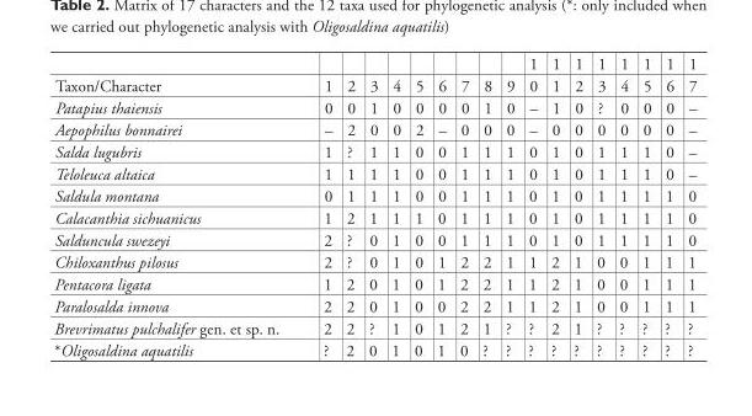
<table><thead><tr><td></td><td></td><td></td><td></td><td></td><td></td><td></td><td></td><td></td><td></td><td>1</td><td>1</td><td>1</td><td>1</td><td>1</td><td>1</td><td>1</td><td>1</td></tr></thead><tbody><tr><td>Taxon/Character</td><td>1</td><td>2</td><td>3</td><td>4</td><td>5</td><td>6</td><td>7</td><td>8</td><td>9</td><td>0</td><td>1</td><td>2</td><td>3</td><td>4</td><td>5</td><td>6</td><td>7</td></tr><tr><td>Patapius thaiensis</td><td>0</td><td>0</td><td>1</td><td>0</td><td>0</td><td>0</td><td>0</td><td>1</td><td>0</td><td>–</td><td>1</td><td>0</td><td>?</td><td>0</td><td>0</td><td>0</td><td>–</td></tr><tr><td>Aepophilus bonnairei</td><td>–</td><td>2</td><td>0</td><td>0</td><td>2</td><td>–</td><td>0</td><td>0</td><td>0</td><td>–</td><td>0</td><td>0</td><td>0</td><td>0</td><td>0</td><td>0</td><td>–</td></tr><tr><td>Salda lugubris</td><td>1</td><td>?</td><td>1</td><td>1</td><td>0</td><td>0</td><td>1</td><td>1</td><td>1</td><td>0</td><td>1</td><td>0</td><td>1</td><td>1</td><td>1</td><td>0</td><td>–</td></tr><tr><td>Teloleuca altaica</td><td>1</td><td>1</td><td>1</td><td>1</td><td>0</td><td>0</td><td>1</td><td>1</td><td>1</td><td>0</td><td>1</td><td>0</td><td>1</td><td>1</td><td>1</td><td>0</td><td>–</td></tr><tr><td>Saldula montana</td><td>0</td><td>1</td><td>1</td><td>1</td><td>0</td><td>0</td><td>1</td><td>1</td><td>1</td><td>0</td><td>1</td><td>0</td><td>1</td><td>1</td><td>1</td><td>1</td><td>0</td></tr><tr><td>Calacanthia sichuanicus</td><td>1</td><td>2</td><td>1</td><td>1</td><td>1</td><td>0</td><td>1</td><td>1</td><td>1</td><td>0</td><td>1</td><td>0</td><td>1</td><td>1</td><td>1</td><td>1</td><td>0</td></tr><tr><td>Salduncula swezeyi</td><td>2</td><td>?</td><td>0</td><td>1</td><td>0</td><td>0</td><td>1</td><td>1</td><td>1</td><td>0</td><td>1</td><td>0</td><td>1</td><td>1</td><td>1</td><td>1</td><td>0</td></tr><tr><td>Chiloxanthus pilosus</td><td>2</td><td>?</td><td>0</td><td>1</td><td>0</td><td>1</td><td>2</td><td>2</td><td>1</td><td>1</td><td>2</td><td>1</td><td>0</td><td>0</td><td>1</td><td>1</td><td>1</td></tr><tr><td>Pentacora ligata</td><td>1</td><td>2</td><td>0</td><td>1</td><td>0</td><td>1</td><td>2</td><td>2</td><td>1</td><td>1</td><td>2</td><td>1</td><td>0</td><td>0</td><td>1</td><td>1</td><td>1</td></tr><tr><td>Paralosalda innova</td><td>2</td><td>2</td><td>0</td><td>1</td><td>0</td><td>0</td><td>2</td><td>2</td><td>1</td><td>1</td><td>2</td><td>1</td><td>0</td><td>0</td><td>1</td><td>1</td><td>1</td></tr><tr><td>Brevrimatus pulchalifer gen. et sp. n.</td><td>2</td><td>2</td><td>?</td><td>1</td><td>0</td><td>1</td><td>2</td><td>1</td><td>?</td><td>?</td><td>2</td><td>1</td><td>?</td><td>?</td><td>?</td><td>?</td><td>?</td></tr><tr><td>*Oligosaldina aquatilis</td><td>?</td><td>2</td><td>0</td><td>1</td><td>0</td><td>1</td><td>0</td><td>?</td><td>?</td><td>?</td><td>?</td><td>?</td><td>?</td><td>?</td><td>?</td><td>?</td><td>?</td></tr></tbody></table>